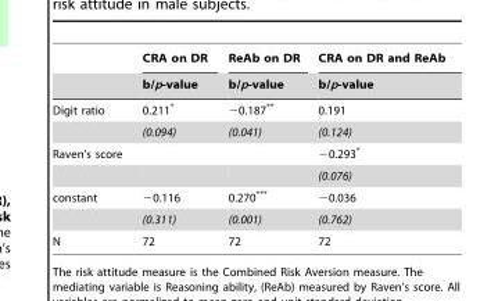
<table><thead><tr><td rowspan="2"></td><td rowspan="2">CRA on DR b/p-value</td><td rowspan="2">ReAb on DR b/p-value</td><td rowspan="2">CRA on DR and ReAb b/p-value</td></tr><tr></tr></thead><tbody><tr><td rowspan="2">Digit ratio</td><td>0.211*</td><td>−0.187**</td><td>0.191</td></tr><tr><td>(0.094)</td><td>(0.041)</td><td>(0.124)</td></tr><tr><td rowspan="2">Raven’s score</td><td></td><td></td><td>−0.293*</td></tr><tr><td></td><td></td><td>(0.076)</td></tr><tr><td rowspan="2">constant</td><td>−0.116</td><td>0.270***</td><td>−0.036</td></tr><tr><td>(0.311)</td><td>(0.001)</td><td>(0.762)</td></tr><tr><td>N</td><td>72</td><td>72</td><td>72</td></tr></tbody></table>